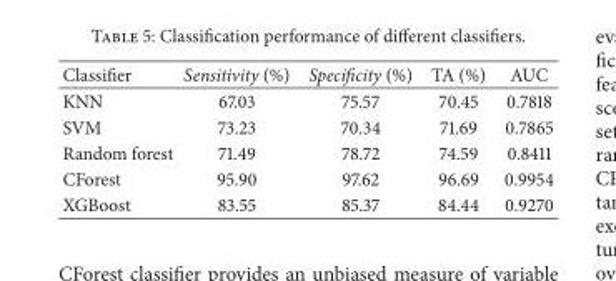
<table><thead><tr><td>Classifier</td><td>Sensitivity (%)</td><td>Specificity (%)</td><td>TA (%)</td><td>AUC</td></tr></thead><tbody><tr><td>KNN</td><td>67.03</td><td>75.57</td><td>70.45</td><td>0.7818</td></tr><tr><td>SVM</td><td>73.23</td><td>70.34</td><td>71.69</td><td>0.7865</td></tr><tr><td>Random forest</td><td>71.49</td><td>78.72</td><td>74.59</td><td>0.8411</td></tr><tr><td>CForest</td><td>95.90</td><td>97.62</td><td>96.69</td><td>0.9954</td></tr><tr><td>XGBoost</td><td>83.55</td><td>85.37</td><td>84.44</td><td>0.9270</td></tr></tbody></table>